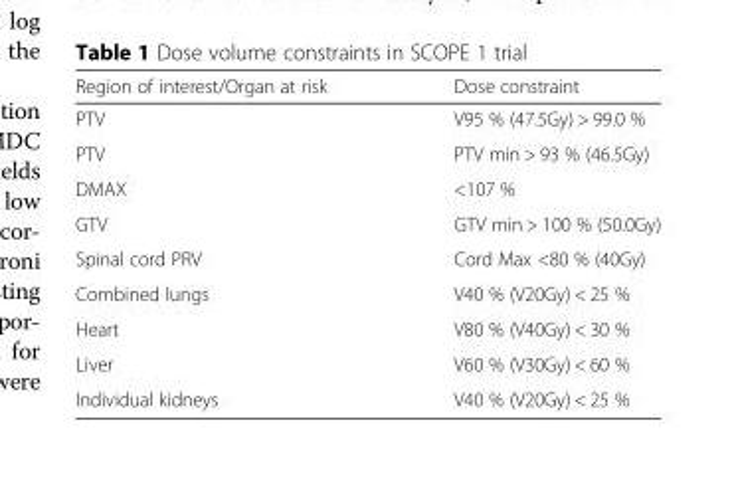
<table><thead><tr><td>Region of interest/Organ at risk</td><td>Dose constraint</td></tr></thead><tbody><tr><td>PTV</td><td>V95 % (47.5Gy) &gt; 99.0 %</td></tr><tr><td>PTV</td><td>PTV min &gt; 93 % (46.5Gy)</td></tr><tr><td>DMAX</td><td>&lt;107 %</td></tr><tr><td>GTV</td><td>GTV min &gt; 100 % (50.0Gy)</td></tr><tr><td>Spinal cord PRV</td><td>Cord Max &lt;80 % (40Gy)</td></tr><tr><td>Combined lungs</td><td>V40 % (V20Gy) &lt; 25 %</td></tr><tr><td>Heart</td><td>V80 % (V40Gy) &lt; 30 %</td></tr><tr><td>Liver</td><td>V60 % (V30Gy) &lt; 60 %</td></tr><tr><td>Individual kidneys</td><td>V40 % (V20Gy) &lt; 25 %</td></tr></tbody></table>